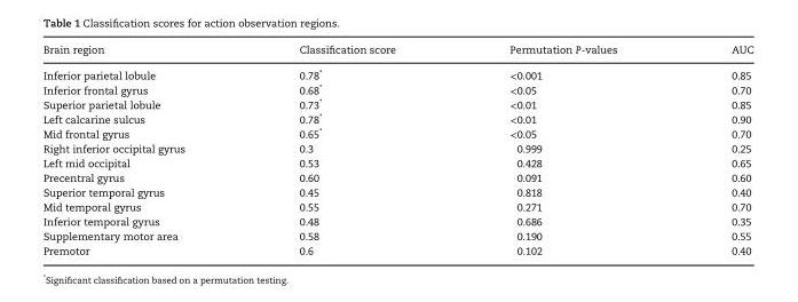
<table><thead><tr><td>Brain region</td><td>Classification score</td><td>Permutation P-values</td><td>AUC</td></tr></thead><tbody><tr><td>Inferior parietal lobule</td><td>0.78*</td><td>&lt;0.001</td><td>0.85</td></tr><tr><td>Inferior frontal gyrus</td><td>0.68*</td><td>&lt;0.05</td><td>0.70</td></tr><tr><td>Superior parietal lobule</td><td>0.73*</td><td>&lt;0.01</td><td>0.85</td></tr><tr><td>Left calcarine sulcus</td><td>0.78*</td><td>&lt;0.01</td><td>0.90</td></tr><tr><td>Mid frontal gyrus</td><td>0.65*</td><td>&lt;0.05</td><td>0.70</td></tr><tr><td>Right inferior occipital gyrus</td><td>0.3</td><td>0.999</td><td>0.25</td></tr><tr><td>Left mid occipital</td><td>0.53</td><td>0.428</td><td>0.65</td></tr><tr><td>Precentral gyrus</td><td>0.60</td><td>0.091</td><td>0.60</td></tr><tr><td>Superior temporal gyrus</td><td>0.45</td><td>0.818</td><td>0.40</td></tr><tr><td>Mid temporal gyrus</td><td>0.55</td><td>0.271</td><td>0.70</td></tr><tr><td>Inferior temporal gyrus</td><td>0.48</td><td>0.686</td><td>0.35</td></tr><tr><td>Supplementary motor area</td><td>0.58</td><td>0.190</td><td>0.55</td></tr><tr><td>Premotor</td><td>0.6</td><td>0.102</td><td>0.40</td></tr></tbody></table>